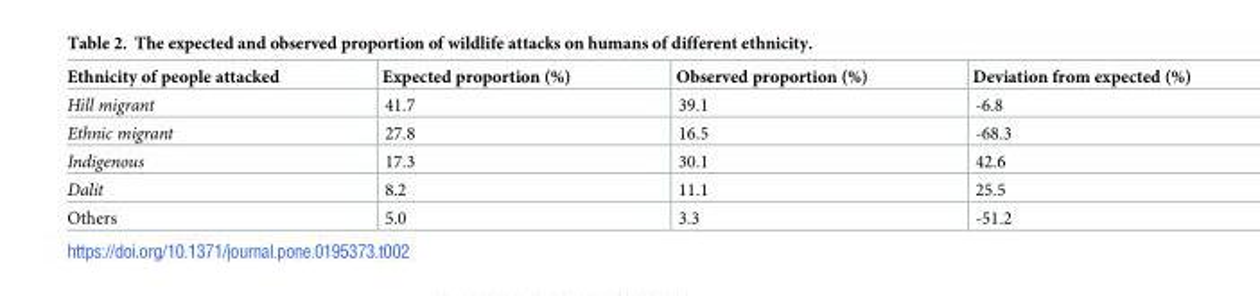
<table><thead><tr><td>Ethnicity of people attacked</td><td>Expected proportion (%)</td><td>Observed proportion (%)</td><td>Deviation from expected (%)</td></tr></thead><tbody><tr><td>Hill migrant</td><td>41.7</td><td>39.1</td><td>-6.8</td></tr><tr><td>Ethnic migrant</td><td>27.8</td><td>16.5</td><td>-68.3</td></tr><tr><td>Indigenous</td><td>17.3</td><td>30.1</td><td>42.6</td></tr><tr><td>Dalit</td><td>8.2</td><td>11.1</td><td>25.5</td></tr><tr><td>Others</td><td>5.0</td><td>3.3</td><td>-51.2</td></tr></tbody></table>